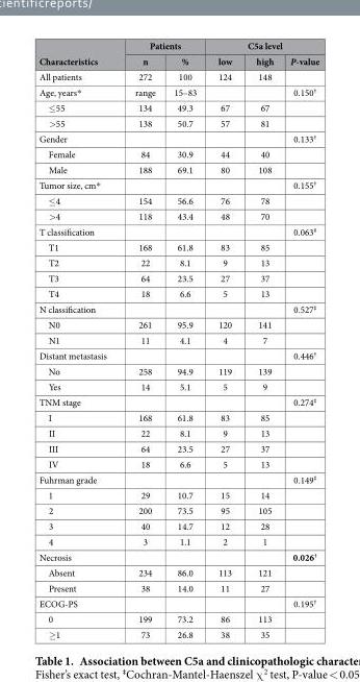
<table><thead><tr><td rowspan="2">Characteristics</td><td colspan="2">Patients</td><td colspan="3">C5a level</td></tr><tr><td>n</td><td>%</td><td>low</td><td>high</td><td>P-value</td></tr></thead><tbody><tr><td>All patients</td><td>272</td><td>100</td><td>124</td><td>148</td><td></td></tr><tr><td>Age, years*</td><td>range</td><td>15–83</td><td></td><td></td><td>0.150<sup>†</sup></td></tr><tr><td>≤ 55</td><td>134</td><td>49.3</td><td>67</td><td>67</td><td></td></tr><tr><td>&gt; 55</td><td>138</td><td>50.7</td><td>57</td><td>81</td><td></td></tr><tr><td>Gender</td><td></td><td></td><td></td><td></td><td>0.133<sup>†</sup></td></tr><tr><td>Female</td><td>84</td><td>30.9</td><td>44</td><td>40</td><td></td></tr><tr><td>Male</td><td>188</td><td>69.1</td><td>80</td><td>108</td><td></td></tr><tr><td>Tumor size, cm*</td><td></td><td></td><td></td><td></td><td>0.155<sup>†</sup></td></tr><tr><td>≤ 4</td><td>154</td><td>56.6</td><td>76</td><td>78</td><td></td></tr><tr><td>&gt; 4</td><td>118</td><td>43.4</td><td>48</td><td>70</td><td></td></tr><tr><td>T classification</td><td></td><td></td><td></td><td></td><td>0.063<sup>‡</sup></td></tr><tr><td>T1</td><td>168</td><td>61.8</td><td>83</td><td>85</td><td></td></tr><tr><td>T2</td><td>22</td><td>8.1</td><td>9</td><td>13</td><td></td></tr><tr><td>T3</td><td>64</td><td>23.5</td><td>27</td><td>37</td><td></td></tr><tr><td>T4</td><td>18</td><td>6.6</td><td>5</td><td>13</td><td></td></tr><tr><td>N classification</td><td></td><td></td><td></td><td></td><td>0.527<sup>‡</sup></td></tr><tr><td>N0</td><td>261</td><td>95.9</td><td>120</td><td>141</td><td></td></tr><tr><td>N1</td><td>11</td><td>4.1</td><td>4</td><td>7</td><td></td></tr><tr><td>Distant metastasis</td><td></td><td></td><td></td><td></td><td>0.446<sup>†</sup></td></tr><tr><td>No</td><td>258</td><td>94.9</td><td>119</td><td>139</td><td></td></tr><tr><td>Yes</td><td>14</td><td>5.1</td><td>5</td><td>9</td><td></td></tr><tr><td>TNM stage</td><td></td><td></td><td></td><td></td><td>0.274<sup>‡</sup></td></tr><tr><td>I</td><td>168</td><td>61.8</td><td>83</td><td>85</td><td></td></tr><tr><td>II</td><td>22</td><td>8.1</td><td>9</td><td>13</td><td></td></tr><tr><td>III</td><td>64</td><td>23.5</td><td>27</td><td>37</td><td></td></tr><tr><td>IV</td><td>18</td><td>6.6</td><td>5</td><td>13</td><td></td></tr><tr><td>Fuhrman grade</td><td></td><td></td><td></td><td></td><td>0.149<sup>‡</sup></td></tr><tr><td>1</td><td>29</td><td>10.7</td><td>15</td><td>14</td><td></td></tr><tr><td>2</td><td>200</td><td>73.5</td><td>95</td><td>105</td><td></td></tr><tr><td>3</td><td>40</td><td>14.7</td><td>12</td><td>28</td><td></td></tr><tr><td>4</td><td>3</td><td>1.1</td><td>2</td><td>1</td><td></td></tr><tr><td>Necrosis</td><td></td><td></td><td></td><td></td><td>0.026<sup>†</sup></td></tr><tr><td>Absent</td><td>234</td><td>86.0</td><td>113</td><td>121</td><td></td></tr><tr><td>Present</td><td>38</td><td>14.0</td><td>11</td><td>27</td><td></td></tr><tr><td>ECOG-PS</td><td></td><td></td><td></td><td></td><td>0.195<sup>†</sup></td></tr><tr><td>0</td><td>199</td><td>73.2</td><td>86</td><td>113</td><td></td></tr><tr><td>≥ 1</td><td>73</td><td>26.8</td><td>38</td><td>35</td><td></td></tr></tbody></table>